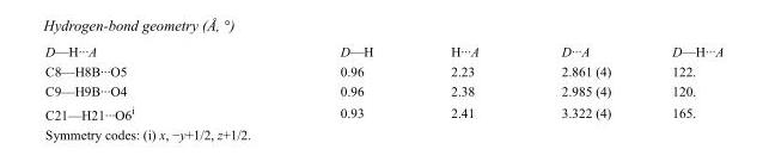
<table><tbody><tr><td>D—H···A</td><td>D—H</td><td>H···A</td><td>D···A</td><td>D—H···A</td></tr><tr><td>C8—H8B···O5</td><td>0.96</td><td>2.23</td><td>2.861 (4)</td><td>122.</td></tr><tr><td>C9—H9B···O4</td><td>0.96</td><td>2.38</td><td>2.985 (4)</td><td>120.</td></tr><tr><td>C21—H21···O6<sup>i</sup></td><td>0.93</td><td>2.41</td><td>3.322 (4)</td><td>165.</td></tr></tbody></table>